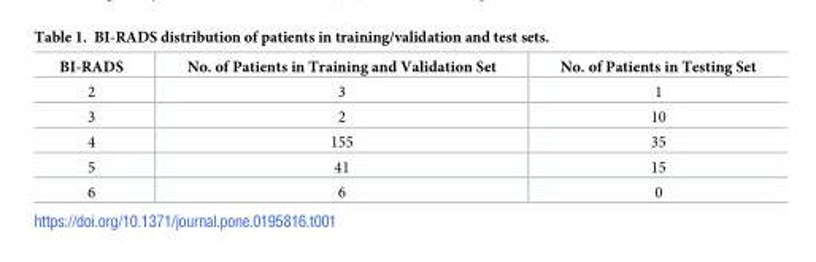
<table><thead><tr><td>BI-RADS</td><td>No. of Patients in Training and Validation Set</td><td>No. of Patients in Testing Set</td></tr></thead><tbody><tr><td>2</td><td>3</td><td>1</td></tr><tr><td>3</td><td>2</td><td>10</td></tr><tr><td>4</td><td>155</td><td>35</td></tr><tr><td>5</td><td>41</td><td>15</td></tr><tr><td>6</td><td>6</td><td>0</td></tr></tbody></table>